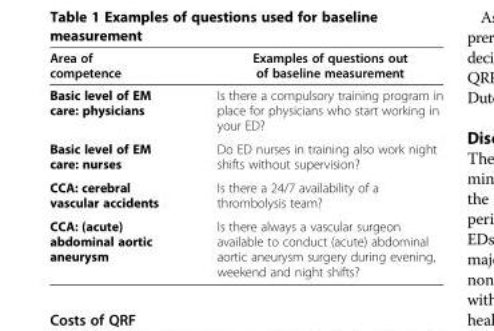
<table><thead><tr><td>Area of competence</td><td>Examples of questions out of baseline measurement</td></tr></thead><tbody><tr><td>Basic level of EM care: physicians</td><td>Is there a compulsory training program in place for physicians who start working in your ED?</td></tr><tr><td>Basic level of EM care: nurses</td><td>Do ED nurses in training also work night shifts without supervision?</td></tr><tr><td>CCA: cerebral vascular accidents</td><td>Is there a 24/7 availability of a thrombolysis team?</td></tr><tr><td>CCA: (acute) abdominal aortic aneurysm</td><td>Is there always a vascular surgeon available to conduct (acute) abdominal aortic aneurysm surgery during evening, weekend and night shifts?</td></tr></tbody></table>